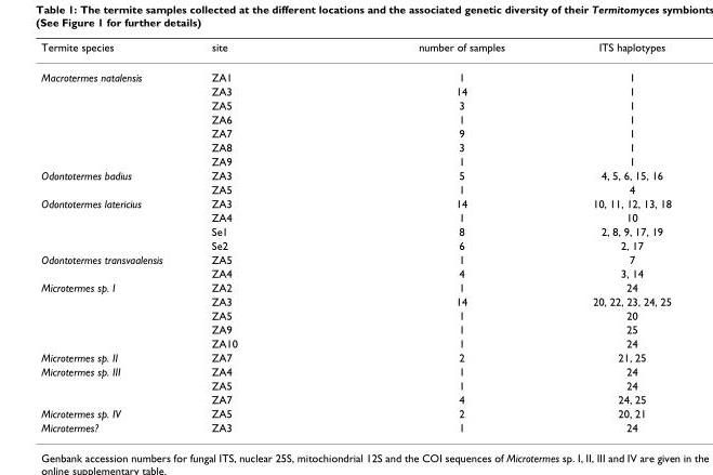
<table><thead><tr><td>Termite species</td><td>site</td><td>number of samples</td><td>ITS haplotypes</td></tr></thead><tbody><tr><td rowspan="7">Macrotermes natalensis</td><td>ZA1</td><td>1</td><td>1</td></tr><tr><td>ZA3</td><td>14</td><td>1</td></tr><tr><td>ZA5</td><td>3</td><td>1</td></tr><tr><td>ZA6</td><td>1</td><td>1</td></tr><tr><td>ZA7</td><td>9</td><td>1</td></tr><tr><td>ZA8</td><td>3</td><td>1</td></tr><tr><td>ZA9</td><td>1</td><td>1</td></tr><tr><td rowspan="2">Odontotermes badius</td><td>ZA3</td><td>5</td><td>4, 5, 6, 15, 16</td></tr><tr><td>ZA5</td><td>1</td><td>4</td></tr><tr><td rowspan="4">Odontotermes latericius</td><td>ZA3</td><td>14</td><td>10, 11, 12, 13, 18</td></tr><tr><td>ZA4</td><td>1</td><td>10</td></tr><tr><td>Se1</td><td>8</td><td>2, 8, 9, 17, 19</td></tr><tr><td>Se2</td><td>6</td><td>2, 17</td></tr><tr><td rowspan="2">Odontotermes transvaalensis</td><td>ZA5</td><td>1</td><td>7</td></tr><tr><td>ZA4</td><td>4</td><td>3, 14</td></tr><tr><td rowspan="5">Microtermes sp. I</td><td>ZA2</td><td>1</td><td>24</td></tr><tr><td>ZA3</td><td>14</td><td>20, 22, 23, 24, 25</td></tr><tr><td>ZA5</td><td>1</td><td>20</td></tr><tr><td>ZA9</td><td>1</td><td>25</td></tr><tr><td>ZA10</td><td>1</td><td>24</td></tr><tr><td>Microtermes sp. II</td><td>ZA7</td><td>2</td><td>21, 25</td></tr><tr><td rowspan="3">Microtermes sp. III</td><td>ZA4</td><td>1</td><td>24</td></tr><tr><td>ZA5</td><td>1</td><td>24</td></tr><tr><td>ZA7</td><td>4</td><td>24, 25</td></tr><tr><td>Microtermes sp. IV</td><td>ZA5</td><td>2</td><td>20, 21</td></tr><tr><td>Microtermes?</td><td>ZA3</td><td>1</td><td>24</td></tr></tbody></table>